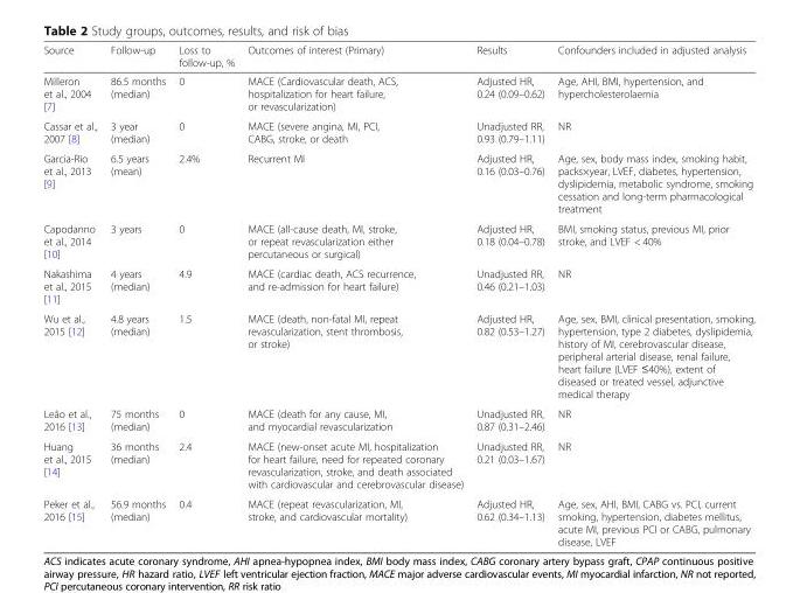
<table><thead><tr><td>Source</td><td>Follow-up</td><td>Loss to follow-up, %</td><td>Outcomes of interest (Primary)</td><td>Results</td><td>Confounders included in adjusted analysis</td></tr></thead><tbody><tr><td>Milleron et al., 2004 [7]</td><td>86.5 months (median)</td><td>0</td><td>MACE (Cardiovascular death, ACS, hospitalization for heart failure, or revascularization)</td><td>Adjusted HR, 0.24 (0.09–0.62)</td><td>Age, AHI, BMI, hypertension, and hypercholesterolaemia</td></tr><tr><td>Cassar et al., 2007 [8]</td><td>3 year (median)</td><td>0</td><td>MACE (severe angina, MI, PCI, CABG, stroke, or death</td><td>Unadjusted RR, 0.93 (0.79–1.11)</td><td>NR</td></tr><tr><td>Garcia-Rio et al., 2013 [9]</td><td>6.5 years (mean)</td><td>2.4%</td><td>Recurrent MI</td><td>Adjusted HR, 0.16 (0.03–0.76)</td><td>Age, sex, body mass index, smoking habit, packs×year, LVEF, diabetes, hypertension, dyslipidemia, metabolic syndrome, smoking cessation and long-term pharmacological treatment</td></tr><tr><td>Capodanno et al., 2014 [10]</td><td>3 years</td><td>0</td><td>MACE (all-cause death, MI, stroke, or repeat revascularization either percutaneous or surgical)</td><td>Adjusted HR, 0.18 (0.04–0.78)</td><td>BMI, smoking status, previous MI, prior stroke, and LVEF &lt; 40%</td></tr><tr><td>Nakashima et al., 2015 [11]</td><td>4 years (median)</td><td>4.9</td><td>MACE (cardiac death, ACS recurrence, and re-admission for heart failure)</td><td>Unadjusted RR, 0.46 (0.21–1.03)</td><td>NR</td></tr><tr><td>Wu et al., 2015 [12]</td><td>4.8 years (median)</td><td>1.5</td><td>MACE (death, non-fatal MI, repeat revascularization, stent thrombosis, or stroke)</td><td>Adjusted HR, 0.82 (0.53–1.27)</td><td>Age, sex, BMI, clinical presentation, smoking, hypertension, type 2 diabetes, dyslipidemia, history of MI, cerebrovascular disease, peripheral arterial disease, renal failure, heart failure (LVEF ≤40%), extent of diseased or treated vessel, adjunctive medical therapy</td></tr><tr><td>Leão et al., 2016 [13]</td><td>75 months (median)</td><td>0</td><td>MACE (death for any cause, MI, and myocardial revascularization</td><td>Unadjusted RR, 0.87 (0.31–2.46)</td><td>NR</td></tr><tr><td>Huang et al., 2015 [14]</td><td>36 months (median)</td><td>2.4</td><td>MACE (new-onset acute MI, hospitalization for heart failure, need for repeated coronary revascularization, stroke, and death associated with cardiovascular and cerebrovascular disease)</td><td>Unadjusted RR, 0.21 (0.03–1.67)</td><td>NR</td></tr><tr><td>Peker et al., 2016 [15]</td><td>56.9 months (median)</td><td>0.4</td><td>MACE (repeat revascularization, MI, stroke, and cardiovascular mortality)</td><td>Adjusted HR, 0.62 (0.34–1.13)</td><td>Age, sex, AHI, BMI, CABG vs. PCI, current smoking, hypertension, diabetes mellitus, acute MI, previous PCI or CABG, pulmonary disease, LVEF</td></tr></tbody></table>